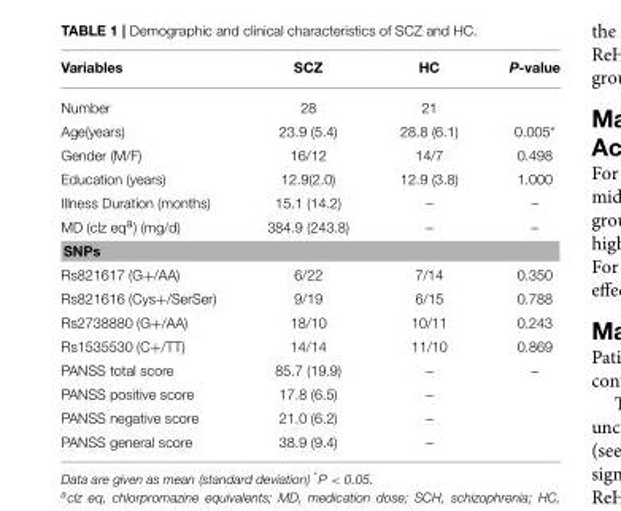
<table><thead><tr><td>Variables</td><td>SCZ</td><td>HC</td><td>P-value</td></tr></thead><tbody><tr><td>Number</td><td>28</td><td>21</td><td></td></tr><tr><td>Age(years)</td><td>23.9 (5.4)</td><td>28.8 (6.1)</td><td>0.005*</td></tr><tr><td>Gender (M/F)</td><td>16/12</td><td>14/7</td><td>0.498</td></tr><tr><td>Education (years)</td><td>12.9(2.0)</td><td>12.9 (3.8)</td><td>1.000</td></tr><tr><td>Illness Duration (months)</td><td>15.1 (14.2)</td><td>–</td><td>–</td></tr><tr><td>MD (clz eq<sup>a</sup>) (mg/d)</td><td>384.9 (243.8)</td><td>–</td><td>–</td></tr><tr><td colspan="4">SNPs</td></tr><tr><td>Rs821617 (G+/AA)</td><td>6/22</td><td>7/14</td><td>0.350</td></tr><tr><td>Rs821616 (Cys+/SerSer)</td><td>9/19</td><td>6/15</td><td>0.788</td></tr><tr><td>Rs2738880 (G+/AA)</td><td>18/10</td><td>10/11</td><td>0.243</td></tr><tr><td>Rs1535530 (C+/TT)</td><td>14/14</td><td>11/10</td><td>0.869</td></tr><tr><td>PANSS total score</td><td>85.7 (19.9)</td><td>–</td><td>–</td></tr><tr><td>PANSS positive score</td><td>17.8 (6.5)</td><td>–</td><td></td></tr><tr><td>PANSS negative score</td><td>21.0 (6.2)</td><td>–</td><td></td></tr><tr><td>PANSS general score</td><td>38.9 (9.4)</td><td>–</td><td></td></tr></tbody></table>